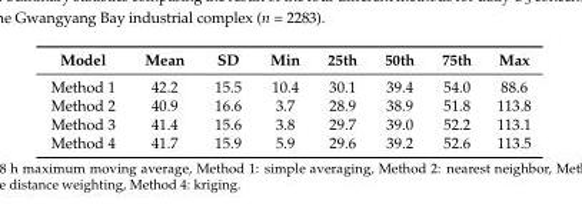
<table><thead><tr><td>Model</td><td>Mean</td><td>SD</td><td>Min</td><td>25th</td><td>50th</td><td>75th</td><td>Max</td></tr></thead><tbody><tr><td>Method 1</td><td>42.2</td><td>15.5</td><td>10.4</td><td>30.1</td><td>39.4</td><td>54.0</td><td>88.6</td></tr><tr><td>Method 2</td><td>40.9</td><td>16.6</td><td>3.7</td><td>28.9</td><td>38.9</td><td>51.8</td><td>113.8</td></tr><tr><td>Method 3</td><td>41.4</td><td>15.6</td><td>3.8</td><td>29.7</td><td>39.0</td><td>52.2</td><td>113.1</td></tr><tr><td>Method 4</td><td>41.7</td><td>15.9</td><td>5.9</td><td>29.6</td><td>39.2</td><td>52.6</td><td>113.5</td></tr></tbody></table>